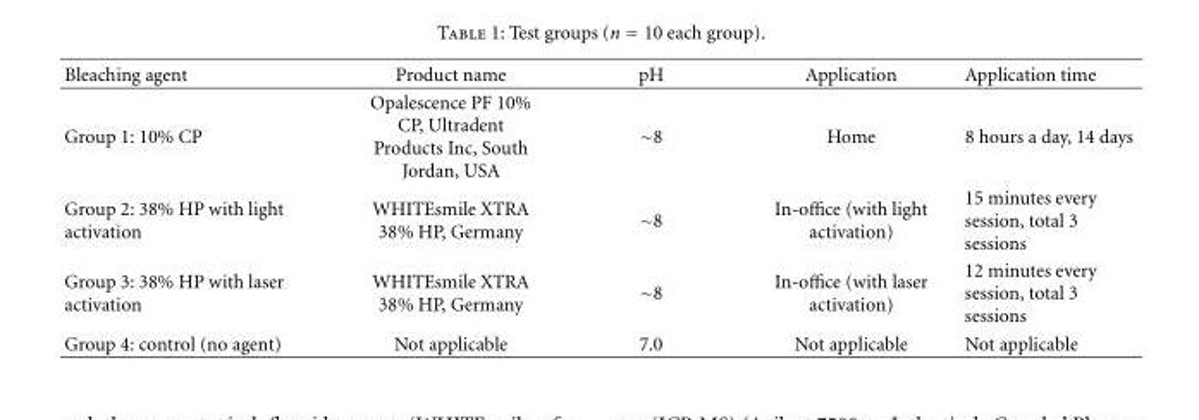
<table><thead><tr><td>Bleaching agent</td><td>Product name</td><td>pH</td><td>Application</td><td>Application time</td></tr></thead><tbody><tr><td>Group 1: 10% CP</td><td>Opalescence PF 10% CP, Ultradent Products Inc, South Jordan, USA</td><td>∼8</td><td>Home</td><td>8 hours a day, 14 days</td></tr><tr><td>Group 2: 38% HP with light activation</td><td>WHITEsmile XTRA 38% HP, Germany</td><td>∼8</td><td>In-office (with light activation)</td><td>15 minutes every session, total 3 sessions</td></tr><tr><td>Group 3: 38% HP with laser activation</td><td>WHITEsmile XTRA 38% HP, Germany</td><td>∼8</td><td>In-office (with laser activation)</td><td>12 minutes every session, total 3 sessions</td></tr><tr><td>Group 4: control (no agent)</td><td>Not applicable</td><td>7.0</td><td>Not applicable</td><td>Not applicable</td></tr></tbody></table>